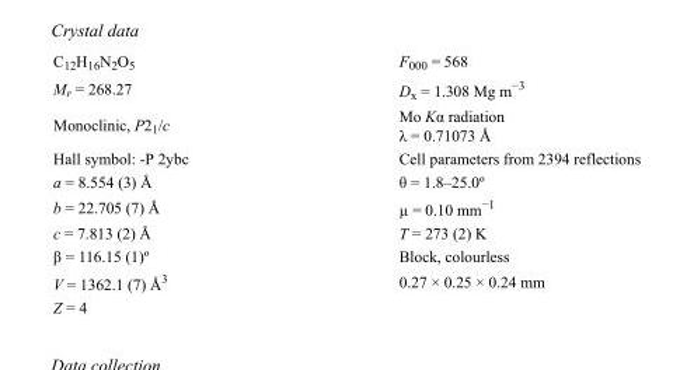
<table><tbody><tr><td>C<sub>12</sub>H<sub>16</sub>N<sub>2</sub>O<sub>5</sub></td><td>F000 = 568</td></tr><tr><td>M<sub>r</sub> = 268.27</td><td>D<sub>x</sub> = 1.308 Mg m<sup>−3</sup></td></tr><tr><td>Monoclinic, P2<sub>1</sub>/c</td><td>Mo Kα radiation λ = 0.71073 Å</td></tr><tr><td>Hall symbol: -P 2ybc</td><td>Cell parameters from 2394 reflections</td></tr><tr><td>a = 8.554 (3) Å</td><td>θ = 1.8–25.0º</td></tr><tr><td>b = 22.705 (7) Å</td><td>µ = 0.10 mm<sup>−1</sup></td></tr><tr><td>c = 7.813 (2) Å</td><td>T = 273 (2) K</td></tr><tr><td>β = 116.15 (1)º</td><td>Block, colourless</td></tr><tr><td>V = 1362.1 (7) Å<sup>3</sup></td><td>0.27 × 0.25 × 0.24 mm</td></tr><tr><td>Z = 4</td><td></td></tr></tbody></table>